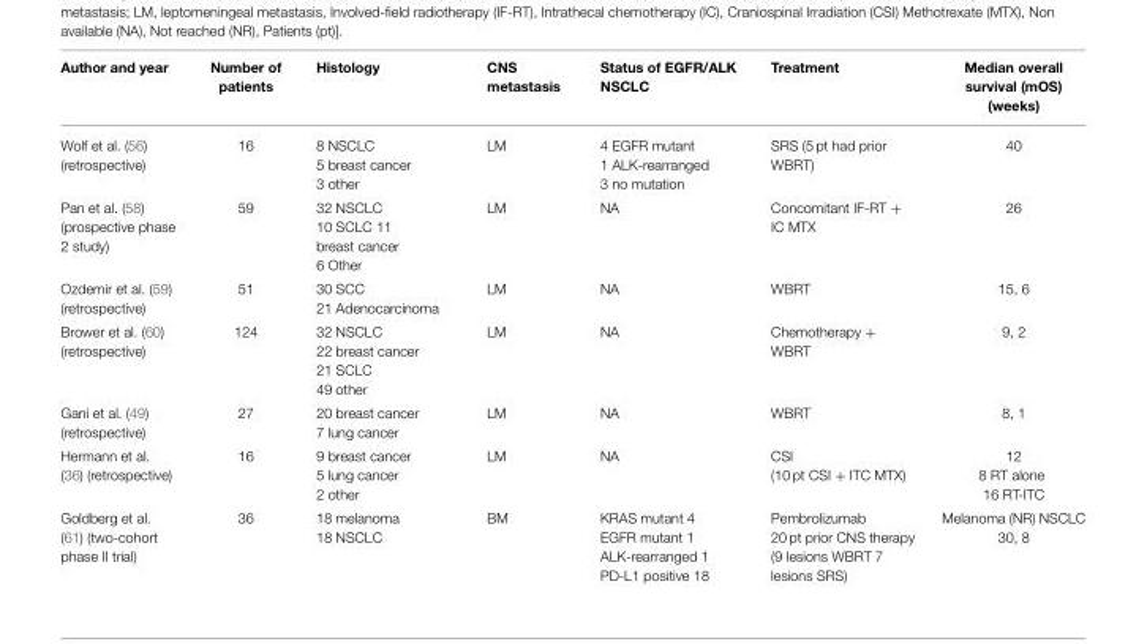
<table><thead><tr><td>Author and year</td><td>Number of patients</td><td>Histology</td><td>CNS metastasis</td><td>Status of EGFR/ALK NSCLC</td><td>Treatment</td><td>Median overall survival (mOS) (weeks)</td></tr></thead><tbody><tr><td>Wolf et al. (56) (retrospective)</td><td>16</td><td>8 NSCLC 5 breast cancer 3 other</td><td>LM</td><td>4 EGFR mutant 1 ALK-rearranged 3 no mutation</td><td>SRS (5 pt had prior WBRT)</td><td>40</td></tr><tr><td>Pan et al. (58) (prospective phase 2 study)</td><td>59</td><td>32 NSCLC 10 SCLC 11 breast cancer 6 Other</td><td>LM</td><td>NA</td><td>Concomitant IF-RT + IC MTX</td><td>26</td></tr><tr><td>Ozdemir et al. (59) (retrospective)</td><td>51</td><td>30 SCC 21 Adenocarcinoma</td><td>LM</td><td>NA</td><td>WBRT</td><td>15, 6</td></tr><tr><td>Brower et al. (60) (retrospective)</td><td>124</td><td>32 NSCLC 22 breast cancer 21 SCLC 49 other</td><td>LM</td><td>NA</td><td>Chemotherapy + WBRT</td><td>9, 2</td></tr><tr><td>Gani et al. (49) (retrospective)</td><td>27</td><td>20 breast cancer 7 lung cancer</td><td>LM</td><td>NA</td><td>WBRT</td><td>8, 1</td></tr><tr><td>Hermann et al. (36) (retrospective)</td><td>16</td><td>9 breast cancer 5 lung cancer 2 other</td><td>LM</td><td>NA</td><td>CSI (10 pt CSI + ITC MTX)</td><td>12 8 RT alone 16 RT-ITC</td></tr><tr><td>Goldberg et al. (61) (two-cohort phase II trial)</td><td>36</td><td>18 melanoma 18 NSCLC</td><td>BM</td><td>KRAS mutant 4 EGFR mutant 1 ALK-rearranged 1 PD-L1 positive 18</td><td>Pembrolizumab 20 pt prior CNS therapy (9 lesions WBRT 7 lesions SRS)</td><td>Melanoma (NR) NSCLC 30, 8</td></tr></tbody></table>